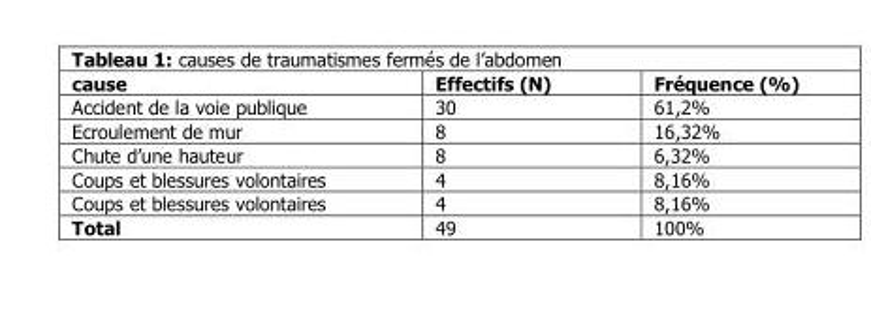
<table><thead><tr><td>cause</td><td>Effectifs (N)</td><td>Fréquence (%)</td></tr></thead><tbody><tr><td>Accident de la voie publique</td><td>30</td><td>61,2%</td></tr><tr><td>Ecroulement de mur</td><td>8</td><td>16,32%</td></tr><tr><td>Chute d’une hauteur</td><td>8</td><td>6,32%</td></tr><tr><td>Coups et blessures volontaires</td><td>4</td><td>8,16%</td></tr><tr><td>Coups et blessures volontaires</td><td>4</td><td>8,16%</td></tr><tr><td>Total</td><td>49</td><td>100%</td></tr></tbody></table>